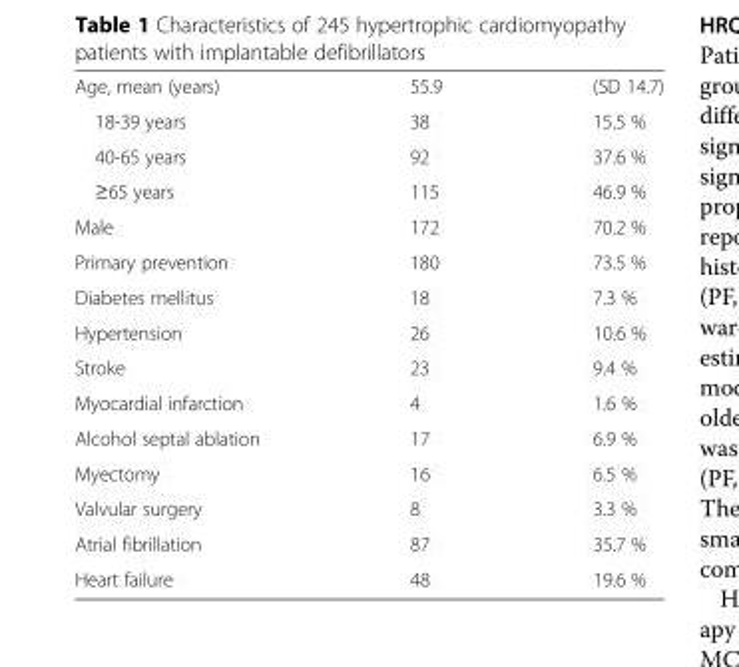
<table><tbody><tr><td>Age, mean (years)</td><td>55.9</td><td>(SD 14.7)</td></tr><tr><td>18-39 years</td><td>38</td><td>15.5 %</td></tr><tr><td>40-65 years</td><td>92</td><td>37.6 %</td></tr><tr><td>≥65 years</td><td>115</td><td>46.9 %</td></tr><tr><td>Male</td><td>172</td><td>70.2 %</td></tr><tr><td>Primary prevention</td><td>180</td><td>73.5 %</td></tr><tr><td>Diabetes mellitus</td><td>18</td><td>7.3 %</td></tr><tr><td>Hypertension</td><td>26</td><td>10.6 %</td></tr><tr><td>Stroke</td><td>23</td><td>9.4 %</td></tr><tr><td>Myocardial infarction</td><td>4</td><td>1.6 %</td></tr><tr><td>Alcohol septal ablation</td><td>17</td><td>6.9 %</td></tr><tr><td>Myectomy</td><td>16</td><td>6.5 %</td></tr><tr><td>Valvular surgery</td><td>8</td><td>3.3 %</td></tr><tr><td>Atrial fibrillation</td><td>87</td><td>35.7 %</td></tr><tr><td>Heart failure</td><td>48</td><td>19.6 %</td></tr></tbody></table>